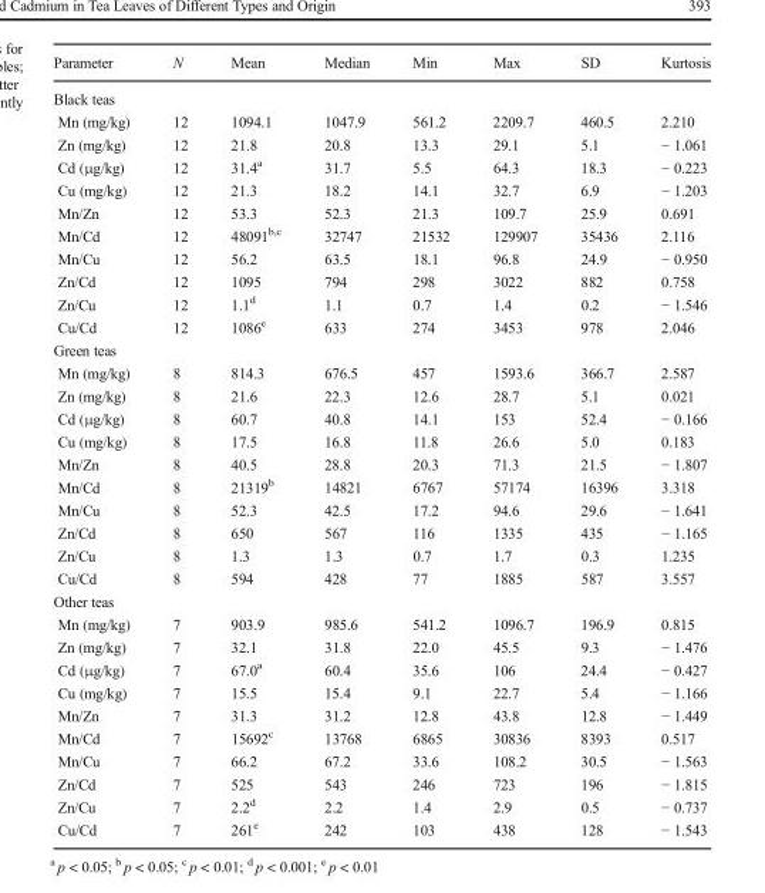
<table><thead><tr><td>Parameter</td><td>N</td><td>Mean</td><td>Median</td><td>Min</td><td>Max</td><td>SD</td><td>Kurtosis</td></tr></thead><tbody><tr><td colspan="8">Black teas</td></tr><tr><td>Mn (mg/kg)</td><td>12</td><td>1094.1</td><td>1047.9</td><td>561.2</td><td>2209.7</td><td>460.5</td><td>2.210</td></tr><tr><td>Zn (mg/kg)</td><td>12</td><td>21.8</td><td>20.8</td><td>13.3</td><td>29.1</td><td>5.1</td><td>− 1.061</td></tr><tr><td>Cd (μg/kg)</td><td>12</td><td>31.4<sup>a</sup></td><td>31.7</td><td>5.5</td><td>64.3</td><td>18.3</td><td>− 0.223</td></tr><tr><td>Cu (mg/kg)</td><td>12</td><td>21.3</td><td>18.2</td><td>14.1</td><td>32.7</td><td>6.9</td><td>− 1.203</td></tr><tr><td>Mn/Zn</td><td>12</td><td>53.3</td><td>52.3</td><td>21.3</td><td>109.7</td><td>25.9</td><td>0.691</td></tr><tr><td>Mn/Cd</td><td>12</td><td>48091<sup>b,c</sup></td><td>32747</td><td>21532</td><td>129907</td><td>35436</td><td>2.116</td></tr><tr><td>Mn/Cu</td><td>12</td><td>56.2</td><td>63.5</td><td>18.1</td><td>96.8</td><td>24.9</td><td>− 0.950</td></tr><tr><td>Zn/Cd</td><td>12</td><td>1095</td><td>794</td><td>298</td><td>3022</td><td>882</td><td>0.758</td></tr><tr><td>Zn/Cu</td><td>12</td><td>1.1<sup>d</sup></td><td>1.1</td><td>0.7</td><td>1.4</td><td>0.2</td><td>− 1.546</td></tr><tr><td>Cu/Cd</td><td>12</td><td>1086<sup>e</sup></td><td>633</td><td>274</td><td>3453</td><td>978</td><td>2.046</td></tr><tr><td colspan="8">Green teas</td></tr><tr><td>Mn (mg/kg)</td><td>8</td><td>814.3</td><td>676.5</td><td>457</td><td>1593.6</td><td>366.7</td><td>2.587</td></tr><tr><td>Zn (mg/kg)</td><td>8</td><td>21.6</td><td>22.3</td><td>12.6</td><td>28.7</td><td>5.1</td><td>0.021</td></tr><tr><td>Cd (μg/kg)</td><td>8</td><td>60.7</td><td>40.8</td><td>14.1</td><td>153</td><td>52.4</td><td>− 0.166</td></tr><tr><td>Cu (mg/kg)</td><td>8</td><td>17.5</td><td>16.8</td><td>11.8</td><td>26.6</td><td>5.0</td><td>0.183</td></tr><tr><td>Mn/Zn</td><td>8</td><td>40.5</td><td>28.8</td><td>20.3</td><td>71.3</td><td>21.5</td><td>− 1.807</td></tr><tr><td>Mn/Cd</td><td>8</td><td>21319<sup>b</sup></td><td>14821</td><td>6767</td><td>57174</td><td>16396</td><td>3.318</td></tr><tr><td>Mn/Cu</td><td>8</td><td>52.3</td><td>42.5</td><td>17.2</td><td>94.6</td><td>29.6</td><td>− 1.641</td></tr><tr><td>Zn/Cd</td><td>8</td><td>650</td><td>567</td><td>116</td><td>1335</td><td>435</td><td>− 1.165</td></tr><tr><td>Zn/Cu</td><td>8</td><td>1.3</td><td>1.3</td><td>0.7</td><td>1.7</td><td>0.3</td><td>1.235</td></tr><tr><td>Cu/Cd</td><td>8</td><td>594</td><td>428</td><td>77</td><td>1885</td><td>587</td><td>3.557</td></tr><tr><td colspan="8">Other teas</td></tr><tr><td>Mn (mg/kg)</td><td>7</td><td>903.9</td><td>985.6</td><td>541.2</td><td>1096.7</td><td>196.9</td><td>0.815</td></tr><tr><td>Zn (mg/kg)</td><td>7</td><td>32.1</td><td>31.8</td><td>22.0</td><td>45.5</td><td>9.3</td><td>− 1.476</td></tr><tr><td>Cd (μg/kg)</td><td>7</td><td>67.0<sup>a</sup></td><td>60.4</td><td>35.6</td><td>106</td><td>24.4</td><td>− 0.427</td></tr><tr><td>Cu (mg/kg)</td><td>7</td><td>15.5</td><td>15.4</td><td>9.1</td><td>22.7</td><td>5.4</td><td>− 1.166</td></tr><tr><td>Mn/Zn</td><td>7</td><td>31.3</td><td>31.2</td><td>12.8</td><td>43.8</td><td>12.8</td><td>− 1.449</td></tr><tr><td>Mn/Cd</td><td>7</td><td>15692<sup>c</sup></td><td>13768</td><td>6865</td><td>30836</td><td>8393</td><td>0.517</td></tr><tr><td>Mn/Cu</td><td>7</td><td>66.2</td><td>67.2</td><td>33.6</td><td>108.2</td><td>30.5</td><td>− 1.563</td></tr><tr><td>Zn/Cd</td><td>7</td><td>525</td><td>543</td><td>246</td><td>723</td><td>196</td><td>− 1.815</td></tr><tr><td>Zn/Cu</td><td>7</td><td>2.2<sup>d</sup></td><td>2.2</td><td>1.4</td><td>2.9</td><td>0.5</td><td>− 0.737</td></tr><tr><td>Cu/Cd</td><td>7</td><td>261<sup>e</sup></td><td>242</td><td>103</td><td>438</td><td>128</td><td>− 1.543</td></tr></tbody></table>